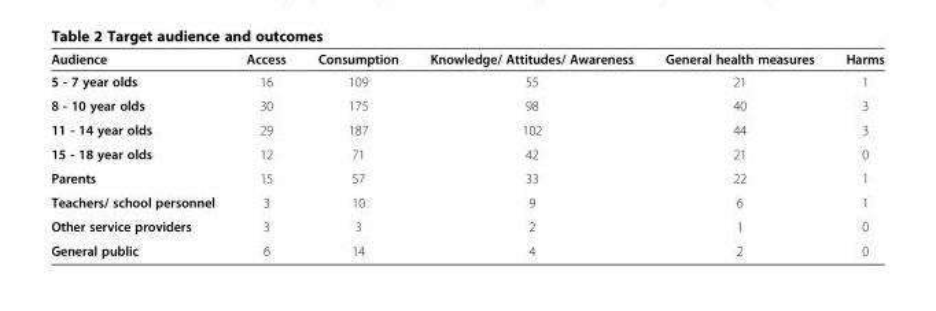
<table><thead><tr><td>Audience</td><td>Access</td><td>Consumption</td><td>Knowledge/ Attitudes/ Awareness</td><td>General health measures</td><td>Harms</td></tr></thead><tbody><tr><td>5 - 7 year olds</td><td>16</td><td>109</td><td>55</td><td>21</td><td>1</td></tr><tr><td>8 - 10 year olds</td><td>30</td><td>175</td><td>98</td><td>40</td><td>3</td></tr><tr><td>11 - 14 year olds</td><td>29</td><td>187</td><td>102</td><td>44</td><td>3</td></tr><tr><td>15 - 18 year olds</td><td>12</td><td>71</td><td>42</td><td>21</td><td>0</td></tr><tr><td>Parents</td><td>15</td><td>57</td><td>33</td><td>22</td><td>1</td></tr><tr><td>Teachers/ school personnel</td><td>3</td><td>10</td><td>9</td><td>6</td><td>1</td></tr><tr><td>Other service providers</td><td>3</td><td>3</td><td>2</td><td>1</td><td>0</td></tr><tr><td>General public</td><td>6</td><td>14</td><td>4</td><td>2</td><td>0</td></tr></tbody></table>